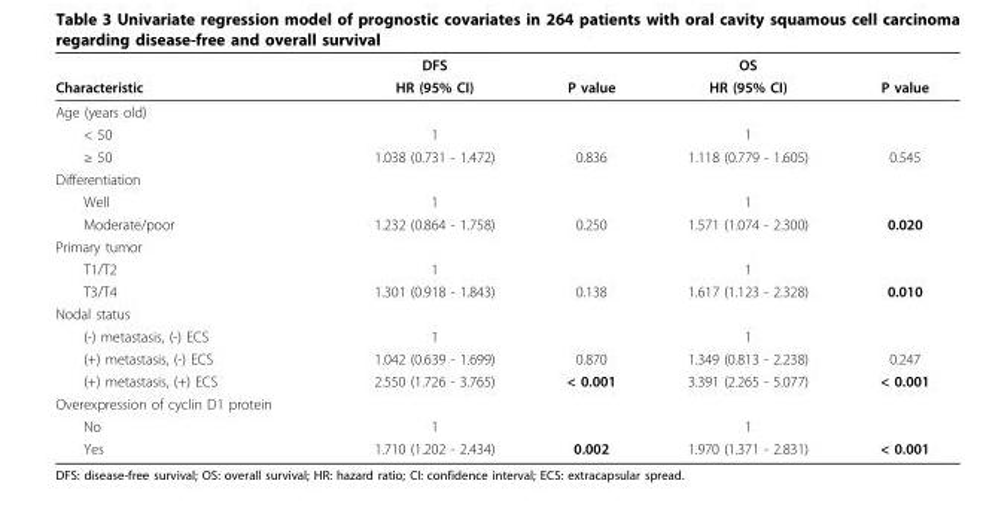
<table><thead><tr><td rowspan="2">Characteristic</td><td rowspan="2">DFS HR (95% CI)</td><td rowspan="2">P value</td><td rowspan="2">OS HR (95% CI)</td><td rowspan="2">P value</td></tr><tr></tr></thead><tbody><tr><td colspan="5">Age (years old)</td></tr><tr><td>&lt; 50</td><td>1</td><td></td><td>1</td><td></td></tr><tr><td>≥ 50</td><td>1.038 (0.731 - 1.472)</td><td>0.836</td><td>1.118 (0.779 - 1.605)</td><td>0.545</td></tr><tr><td colspan="5">Differentiation</td></tr><tr><td>Well</td><td>1</td><td></td><td>1</td><td></td></tr><tr><td>Moderate/poor</td><td>1.232 (0.864 - 1.758)</td><td>0.250</td><td>1.571 (1.074 - 2.300)</td><td>0.020</td></tr><tr><td colspan="5">Primary tumor</td></tr><tr><td>T1/T2</td><td>1</td><td></td><td>1</td><td></td></tr><tr><td>T3/T4</td><td>1.301 (0.918 - 1.843)</td><td>0.138</td><td>1.617 (1.123 - 2.328)</td><td>0.010</td></tr><tr><td colspan="5">Nodal status</td></tr><tr><td>(-) metastasis, (-) ECS</td><td>1</td><td></td><td>1</td><td></td></tr><tr><td>(+) metastasis, (-) ECS</td><td>1.042 (0.639 - 1.699)</td><td>0.870</td><td>1.349 (0.813 - 2.238)</td><td>0.247</td></tr><tr><td>(+) metastasis, (+) ECS</td><td>2.550 (1.726 - 3.765)</td><td>&lt; 0.001</td><td>3.391 (2.265 - 5.077)</td><td>&lt; 0.001</td></tr><tr><td colspan="5">Overexpression of cyclin D1 protein</td></tr><tr><td>No</td><td>1</td><td></td><td>1</td><td></td></tr><tr><td>Yes</td><td>1.710 (1.202 - 2.434)</td><td>0.002</td><td>1.970 (1.371 - 2.831)</td><td>&lt; 0.001</td></tr></tbody></table>